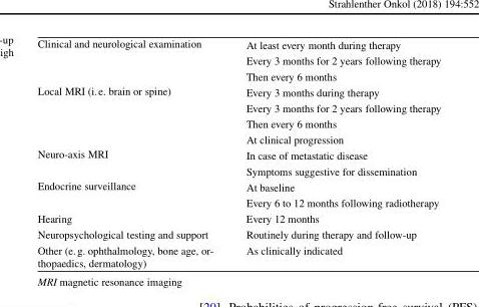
<table><tbody><tr><td rowspan="3">Clinical and neurological examination</td><td>At least every month during therapy</td></tr><tr><td>Every 3 months for 2 years following therapy</td></tr><tr><td>Then every 6 months</td></tr><tr><td rowspan="4">Local MRI (i.e. brain or spine)</td><td>Every 3 months during therapy</td></tr><tr><td>Every 3 months for 2 years following therapy</td></tr><tr><td>Then every 6 months</td></tr><tr><td>At clinical progression</td></tr><tr><td rowspan="2">Neuro-axis MRI</td><td>In case of metastatic disease</td></tr><tr><td>Symptoms suggestive for dissemination</td></tr><tr><td rowspan="2">Endocrine surveillance</td><td>At baseline</td></tr><tr><td>Every 6 to 12 months following radiotherapy</td></tr><tr><td>Hearing</td><td>Every 12 months</td></tr><tr><td>Neuropsychological testing and support</td><td>Routinely during therapy and follow-up</td></tr><tr><td>Other (e.g. ophthalmology, bone age, or- thopaedics, dermatology)</td><td>As clinically indicated</td></tr></tbody></table>